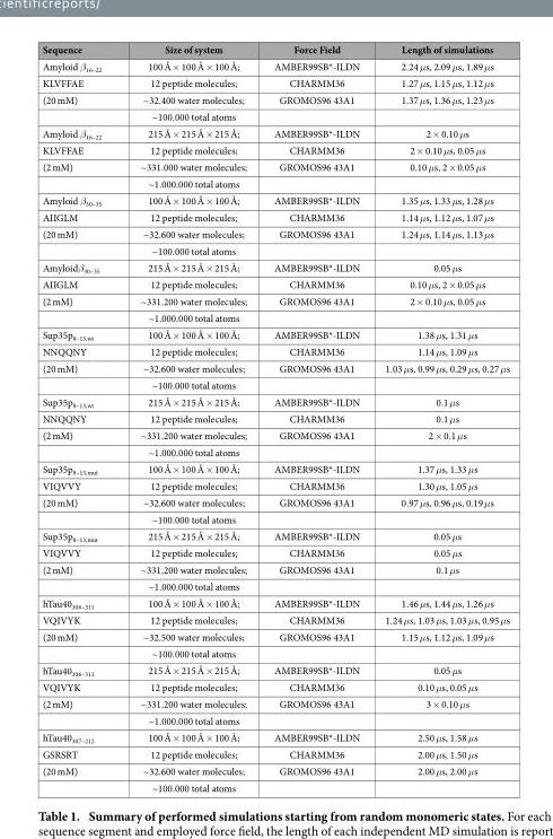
<table><thead><tr><td>Sequence</td><td>Size of system</td><td>Force Field</td><td>Length of simulations</td></tr></thead><tbody><tr><td>Amyloid β<sub>16–22</sub></td><td>100 Å × 100 Å × 100 Å;</td><td>AMBER99SB*-ILDN</td><td>2.24 μs, 2.09 μs, 1.89 μs</td></tr><tr><td>KLVFFAE</td><td>12 peptide molecules;</td><td>CHARMM36</td><td>1.27 μs, 1.15 μs, 1.12 μs</td></tr><tr><td rowspan="2">(20 mM)</td><td>~32.400 water molecules;</td><td>GROMOS96 43A1</td><td>1.37 μs, 1.36 μs, 1.23 μs</td></tr><tr><td>~100.000 total atoms</td><td></td><td></td></tr><tr><td>Amyloid β<sub>16–22</sub></td><td>215 Å × 215 Å × 215 Å;</td><td>AMBER99SB*-ILDN</td><td>2 × 0.10 μs</td></tr><tr><td>KLVFFAE</td><td>12 peptide molecules;</td><td>CHARMM36</td><td>2 × 0.10 μs, 0.05 μs</td></tr><tr><td rowspan="2">(2 mM)</td><td>~331.000 water molecules;</td><td>GROMOS96 43A1</td><td>0.10 μs, 2 × 0.05 μs</td></tr><tr><td>~1.000.000 total atoms</td><td></td><td></td></tr><tr><td>Amyloid β<sub>30–35</sub></td><td>100 Å × 100 Å × 100 Å;</td><td>AMBER99SB*-ILDN</td><td>1.35 μs, 1.33 μs, 1.28 μs</td></tr><tr><td>AIIGLM</td><td>12 peptide molecules;</td><td>CHARMM36</td><td>1.14 μs, 1.12 μs, 1.07 μs</td></tr><tr><td rowspan="2">(20 mM)</td><td>~32.600 water molecules;</td><td>GROMOS96 43A1</td><td>1.24 μs, 1.14 μs, 1.13 μs</td></tr><tr><td>~100.000 total atoms</td><td></td><td></td></tr><tr><td>Amyloidβ<sub>30–35</sub></td><td>215 Å × 215 Å × 215 Å;</td><td>AMBER99SB*-ILDN</td><td>0.05 μs</td></tr><tr><td>AIIGLM</td><td>12 peptide molecules;</td><td>CHARMM36</td><td>0.10 μs, 2 × 0.05 μs</td></tr><tr><td rowspan="2">(2 mM)</td><td>~331.200 water molecules;</td><td>GROMOS96 43A1</td><td>2 × 0.10 μs, 0.05 μs</td></tr><tr><td>~1.000.000 total atoms</td><td></td><td></td></tr><tr><td>Sup35p<sub>8–13,wt</sub></td><td>100 Å × 100 Å × 100 Å;</td><td>AMBER99SB*-ILDN</td><td>1.38 μs, 1.31 μs</td></tr><tr><td>NNQQNY</td><td>12 peptide molecules;</td><td>CHARMM36</td><td>1.14 μs, 1.09 μs</td></tr><tr><td rowspan="2">(20 mM)</td><td>~32.600 water molecules;</td><td>GROMOS96 43A1</td><td>1.03 μs, 0.99 μs, 0.29 μs, 0.27 μs</td></tr><tr><td>~100.000 total atoms</td><td></td><td></td></tr><tr><td>Sup35p<sub>8–13,wt</sub></td><td>215 Å × 215 Å × 215 Å;</td><td>AMBER99SB*-ILDN</td><td>0.1 μs</td></tr><tr><td>NNQQNY</td><td>12 peptide molecules;</td><td>CHARMM36</td><td>0.1 μs</td></tr><tr><td rowspan="2">(2 mM)</td><td>~331.200 water molecules;</td><td>GROMOS96 43A1</td><td>2 × 0.1 μs</td></tr><tr><td>~1.000.000 total atoms</td><td></td><td></td></tr><tr><td>Sup35p<sub>8–13,mut</sub></td><td>100 Å × 100 Å × 100 Å;</td><td>AMBER99SB*-ILDN</td><td>1.37 μs, 1.33 μs</td></tr><tr><td>VIQVVY</td><td>12 peptide molecules;</td><td>CHARMM36</td><td>1.30 μs, 1.05 μs</td></tr><tr><td rowspan="2">(20 mM)</td><td>~32.600 water molecules;</td><td>GROMOS96 43A1</td><td>0.97 μs, 0.96 μs, 0.19 μs</td></tr><tr><td>~100.000 total atoms</td><td></td><td></td></tr><tr><td>Sup35p<sub>8–13,mut</sub></td><td>215 Å × 215 Å × 215 Å;</td><td>AMBER99SB*-ILDN</td><td>0.05 μs</td></tr><tr><td>VIQVVY</td><td>12 peptide molecules;</td><td>CHARMM36</td><td>0.05 μs</td></tr><tr><td rowspan="2">(2 mM)</td><td>~331.200 water molecules;</td><td>GROMOS96 43A1</td><td>0.1 μs</td></tr><tr><td>~1.000.000 total atoms</td><td></td><td></td></tr><tr><td>hTau40<sub>306–311</sub></td><td>100 Å × 100 Å × 100 Å;</td><td>AMBER99SB*-ILDN</td><td>1.46 μs, 1.44 μs, 1.26 μs</td></tr><tr><td>VQIVYK</td><td>12 peptide molecules;</td><td>CHARMM36</td><td>1.24 μs, 1.03 μs, 1.03 μs, 0.95 μs</td></tr><tr><td rowspan="2">(20 mM)</td><td>~32.500 water molecules;</td><td>GROMOS96 43A1</td><td>1.15 μs, 1.12 μs, 1.09 μs</td></tr><tr><td>~100.000 total atoms</td><td></td><td></td></tr><tr><td>hTau40<sub>306–311</sub></td><td>215 Å × 215 Å × 215 Å;</td><td>AMBER99SB*-ILDN</td><td>0.05 μs</td></tr><tr><td>VQIVYK</td><td>12 peptide molecules;</td><td>CHARMM36</td><td>0.10 μs, 0.05 μs</td></tr><tr><td rowspan="2">(2 mM)</td><td>~331.200 water molecules;</td><td>GROMOS96 43A1</td><td>3 × 0.10 μs</td></tr><tr><td>~1.000.000 total atoms</td><td></td><td></td></tr><tr><td>hTau40<sub>307–212</sub></td><td>100 Å × 100 Å × 100 Å;</td><td>AMBER99SB*-ILDN</td><td>2.50 μs, 1.58 μs</td></tr><tr><td>GSRSRT</td><td>12 peptide molecules;</td><td>CHARMM36</td><td>2.00 μs, 1.50 μs</td></tr><tr><td rowspan="2">(20 mM)</td><td>~32.600 water molecules;</td><td>GROMOS96 43A1</td><td>2.00 μs, 2.00 μs</td></tr><tr><td>~100.000 total atoms</td><td></td><td></td></tr></tbody></table>